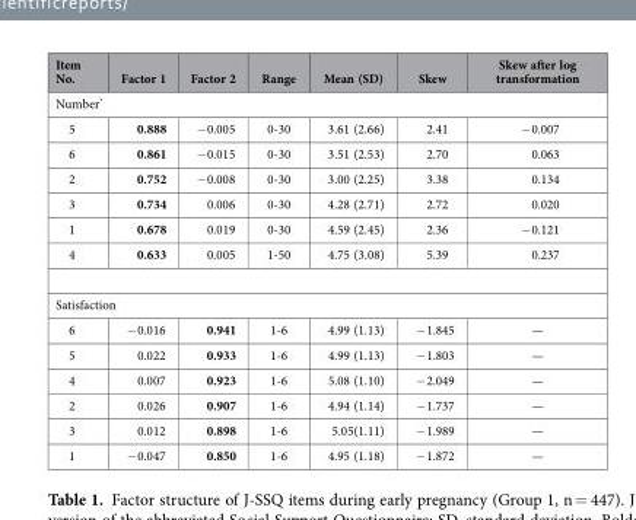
<table><thead><tr><td>Item No.</td><td>Factor 1</td><td>Factor 2</td><td>Range</td><td>Mean (SD)</td><td>Skew</td><td>Skew after log transformation</td></tr></thead><tbody><tr><td colspan="7">Number*</td></tr><tr><td>5</td><td>0.888</td><td>− 0.005</td><td>0-30</td><td>3.61 (2.66)</td><td>2.41</td><td>− 0.007</td></tr><tr><td>6</td><td>0.861</td><td>− 0.015</td><td>0-30</td><td>3.51 (2.53)</td><td>2.70</td><td>0.063</td></tr><tr><td>2</td><td>0.752</td><td>− 0.008</td><td>0-30</td><td>3.00 (2.25)</td><td>3.38</td><td>0.134</td></tr><tr><td>3</td><td>0.734</td><td>0.006</td><td>0-30</td><td>4.28 (2.71)</td><td>2.72</td><td>0.020</td></tr><tr><td>1</td><td>0.678</td><td>0.019</td><td>0-30</td><td>4.59 (2.45)</td><td>2.36</td><td>− 0.121</td></tr><tr><td>4</td><td>0.633</td><td>0.005</td><td>1-50</td><td>4.75 (3.08)</td><td>5.39</td><td>0.237</td></tr><tr><td colspan="7">Satisfaction</td></tr><tr><td>6</td><td>− 0.016</td><td>0.941</td><td>1-6</td><td>4.99 (1.13)</td><td>− 1.845</td><td>—</td></tr><tr><td>5</td><td>0.022</td><td>0.933</td><td>1-6</td><td>4.99 (1.13)</td><td>− 1.803</td><td>—</td></tr><tr><td>4</td><td>0.007</td><td>0.923</td><td>1-6</td><td>5.08 (1.10)</td><td>− 2.049</td><td>—</td></tr><tr><td>2</td><td>0.026</td><td>0.907</td><td>1-6</td><td>4.94 (1.14)</td><td>− 1.737</td><td>—</td></tr><tr><td>3</td><td>0.012</td><td>0.898</td><td>1-6</td><td>5.05(1.11)</td><td>− 1.989</td><td>—</td></tr><tr><td>1</td><td>− 0.047</td><td>0.850</td><td>1-6</td><td>4.95 (1.18)</td><td>− 1.872</td><td>—</td></tr></tbody></table>